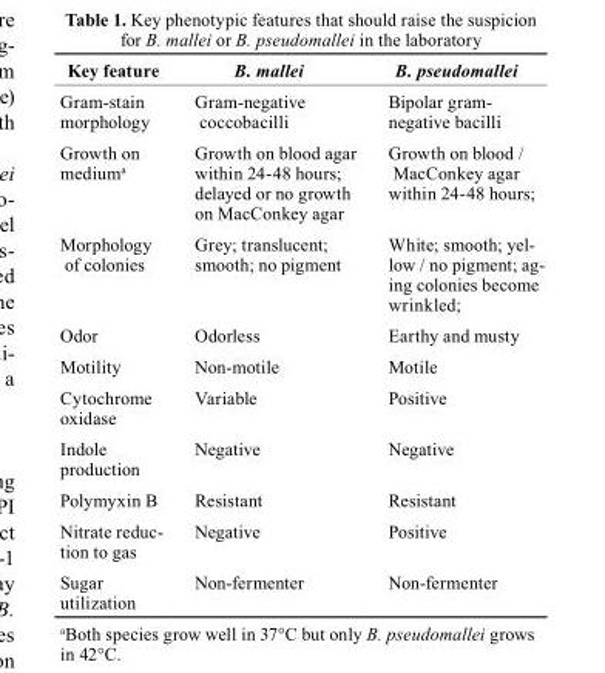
<table><thead><tr><td>Key feature</td><td>B. mallei</td><td>B. pseudomallei</td></tr></thead><tbody><tr><td>Gram-stain morphology</td><td>Gram-negative coccobacilli</td><td>Bipolar gram- negative bacilli</td></tr><tr><td>Growth on medium<sup>a</sup></td><td>Growth on blood agar within 24-48 hours; delayed or no growth on MacConkey agar</td><td>Growth on blood / MacConkey agar within 24-48 hours;</td></tr><tr><td>Morphology of colonies</td><td>Grey; translucent; smooth; no pigment</td><td>White; smooth; yel- low / no pigment; ag- ing colonies become wrinkled;</td></tr><tr><td>Odor</td><td>Odorless</td><td>Earthy and musty</td></tr><tr><td>Motility</td><td>Non-motile</td><td>Motile</td></tr><tr><td>Cytochrome oxidase</td><td>Variable</td><td>Positive</td></tr><tr><td>Indole production</td><td>Negative</td><td>Negative</td></tr><tr><td>Polymyxin B</td><td>Resistant</td><td>Resistant</td></tr><tr><td>Nitrate reduc- tion to gas</td><td>Negative</td><td>Positive</td></tr><tr><td>Sugar utilization</td><td>Non-fermenter</td><td>Non-fermenter</td></tr></tbody></table>